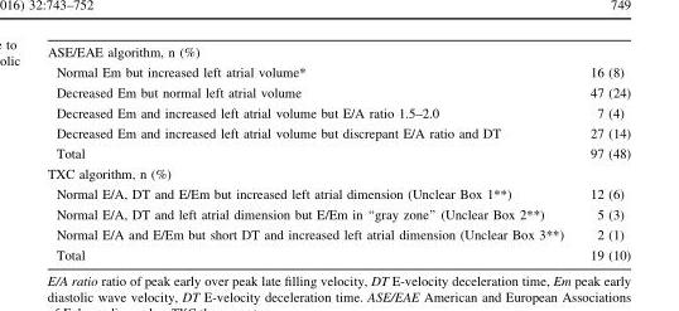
<table><tbody><tr><td colspan="2">ASE/EAE algorithm, n (%)</td></tr><tr><td>Normal Em but increased left atrial volume*</td><td>16 (8)</td></tr><tr><td>Decreased Em but normal left atrial volume</td><td>47 (24)</td></tr><tr><td>Decreased Em and increased left atrial volume but E/A ratio 1.5–2.0</td><td>7 (4)</td></tr><tr><td>Decreased Em and increased left atrial volume but discrepant E/A ratio and DT</td><td>27 (14)</td></tr><tr><td>Total</td><td>97 (48)</td></tr><tr><td colspan="2">TXC algorithm, n (%)</td></tr><tr><td>Normal E/A, DT and E/Em but increased left atrial dimension (Unclear Box 1**)</td><td>12 (6)</td></tr><tr><td>Normal E/A, DT and left atrial dimension but E/Em in ‘‘gray zone’’ (Unclear Box 2**)</td><td>5 (3)</td></tr><tr><td>Normal E/A and E/Em but short DT and increased left atrial dimension (Unclear Box 3**)</td><td>2 (1)</td></tr><tr><td>Total</td><td>19 (10)</td></tr></tbody></table>